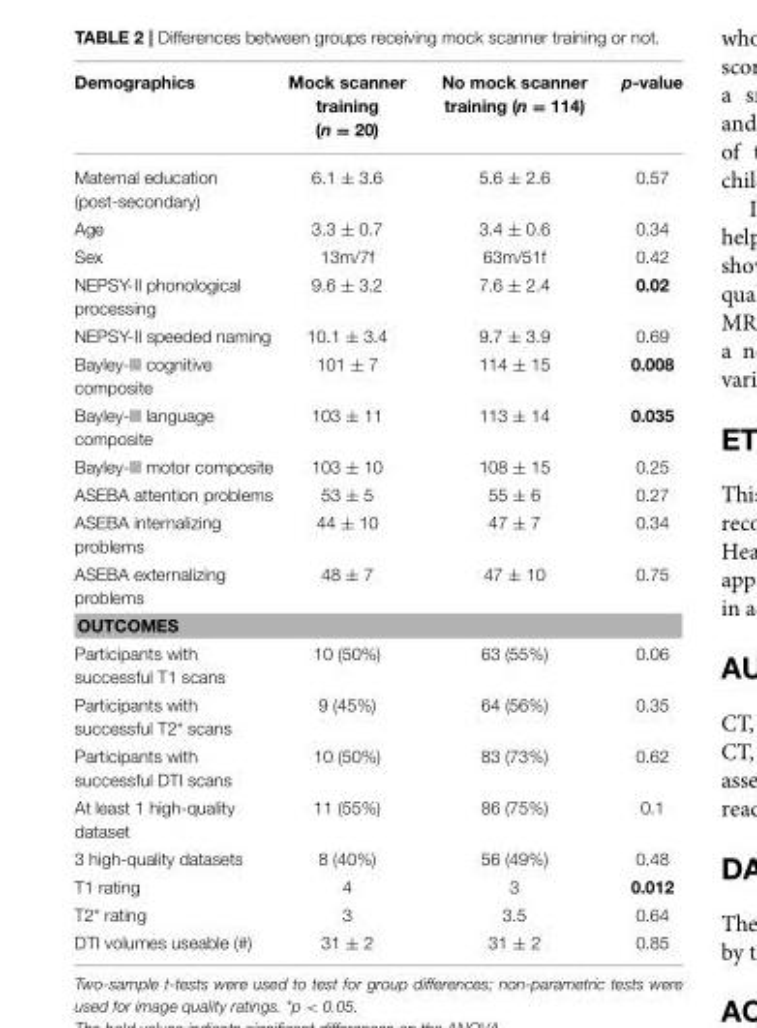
<table><thead><tr><td>Demographics</td><td>Mock scanner training (n = 20)</td><td>No mock scanner training (n = 114)</td><td>p-value</td></tr></thead><tbody><tr><td>Maternal education (post-secondary)</td><td>6.1 ± 3.6</td><td>5.6 ± 2.6</td><td>0.57</td></tr><tr><td>Age</td><td>3.3 ± 0.7</td><td>3.4 ± 0.6</td><td>0.34</td></tr><tr><td>Sex</td><td>13m/7f</td><td>63m/51f</td><td>0.42</td></tr><tr><td>NEPSY-II phonological processing</td><td>9.6 ± 3.2</td><td>7.6 ± 2.4</td><td>0.02</td></tr><tr><td>NEPSY-II speeded naming</td><td>10.1 ± 3.4</td><td>9.7 ± 3.9</td><td>0.69</td></tr><tr><td>Bayley-III cognitive composite</td><td>101 ± 7</td><td>114 ± 15</td><td>0.008</td></tr><tr><td>Bayley-III language composite</td><td>103 ± 11</td><td>113 ± 14</td><td>0.035</td></tr><tr><td>Bayley-III motor composite</td><td>103 ± 10</td><td>108 ± 15</td><td>0.25</td></tr><tr><td>ASEBA attention problems</td><td>53 ± 5</td><td>55 ± 6</td><td>0.27</td></tr><tr><td>ASEBA internalizing problems</td><td>44 ± 10</td><td>47 ± 7</td><td>0.34</td></tr><tr><td>ASEBA externalizing problems</td><td>48 ± 7</td><td>47 ± 10</td><td>0.75</td></tr><tr><td colspan="4">OUTCOMES</td></tr><tr><td>Participants with successful T1 scans</td><td>10 (50%)</td><td>63 (55%)</td><td>0.06</td></tr><tr><td>Participants with successful T2* scans</td><td>9 (45%)</td><td>64 (56%)</td><td>0.35</td></tr><tr><td>Participants with successful DTI scans</td><td>10 (50%)</td><td>83 (73%)</td><td>0.62</td></tr><tr><td>At least 1 high-quality dataset</td><td>11 (55%)</td><td>86 (75%)</td><td>0.1</td></tr><tr><td>3 high-quality datasets</td><td>8 (40%)</td><td>56 (49%)</td><td>0.48</td></tr><tr><td>T1 rating</td><td>4</td><td>3</td><td>0.012</td></tr><tr><td>T2* rating</td><td>3</td><td>3.5</td><td>0.64</td></tr><tr><td>DTI volumes useable (#)</td><td>31 ± 2</td><td>31 ± 2</td><td>0.85</td></tr></tbody></table>